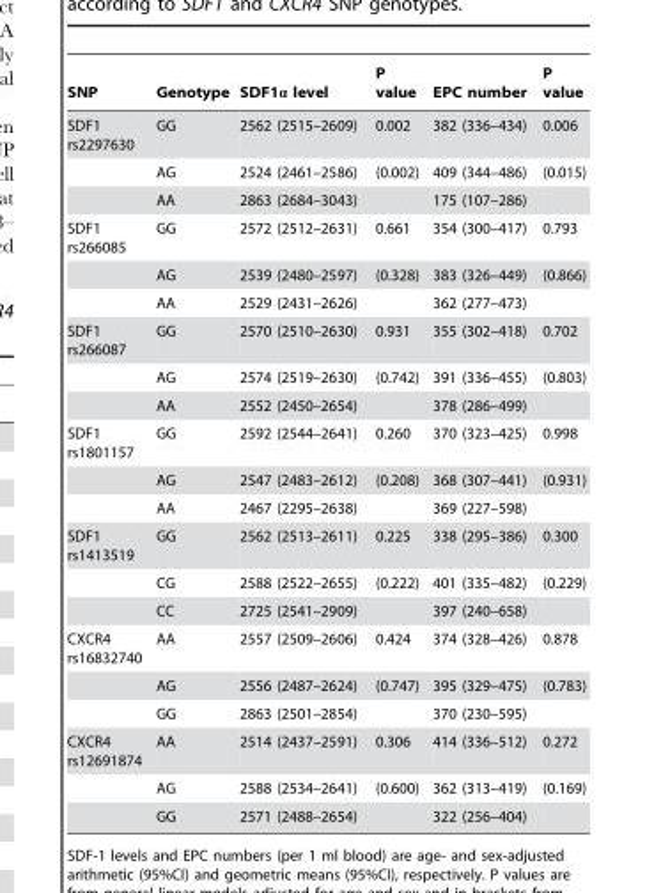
<table><thead><tr><td>SNP</td><td>Genotype</td><td>SDF1α level</td><td>P value</td><td>EPC number</td><td>P value</td></tr></thead><tbody><tr><td rowspan="3">SDF1 rs2297630</td><td>GG</td><td>2562 (2515–2609)</td><td>0.002</td><td>382 (336–434)</td><td>0.006</td></tr><tr><td>AG</td><td>2524 (2461–2586)</td><td>(0.002)</td><td>409 (344–486)</td><td>(0.015)</td></tr><tr><td>AA</td><td>2863 (2684–3043)</td><td></td><td>175 (107–286)</td><td></td></tr><tr><td rowspan="3">SDF1 rs266085</td><td>GG</td><td>2572 (2512–2631)</td><td>0.661</td><td>354 (300–417)</td><td>0.793</td></tr><tr><td>AG</td><td>2539 (2480–2597)</td><td>(0.328)</td><td>383 (326–449)</td><td>(0.866)</td></tr><tr><td>AA</td><td>2529 (2431–2626)</td><td></td><td>362 (277–473)</td><td></td></tr><tr><td rowspan="3">SDF1 rs266087</td><td>GG</td><td>2570 (2510–2630)</td><td>0.931</td><td>355 (302–418)</td><td>0.702</td></tr><tr><td>AG</td><td>2574 (2519–2630)</td><td>(0.742)</td><td>391 (336–455)</td><td>(0.803)</td></tr><tr><td>AA</td><td>2552 (2450–2654)</td><td></td><td>378 (286–499)</td><td></td></tr><tr><td rowspan="3">SDF1 rs1801157</td><td>GG</td><td>2592 (2544–2641)</td><td>0.260</td><td>370 (323–425)</td><td>0.998</td></tr><tr><td>AG</td><td>2547 (2483–2612)</td><td>(0.208)</td><td>368 (307–441)</td><td>(0.931)</td></tr><tr><td>AA</td><td>2467 (2295–2638)</td><td></td><td>369 (227–598)</td><td></td></tr><tr><td rowspan="3">SDF1 rs1413519</td><td>GG</td><td>2562 (2513–2611)</td><td>0.225</td><td>338 (295–386)</td><td>0.300</td></tr><tr><td>CG</td><td>2588 (2522–2655)</td><td>(0.222)</td><td>401 (335–482)</td><td>(0.229)</td></tr><tr><td>CC</td><td>2725 (2541–2909)</td><td></td><td>397 (240–658)</td><td></td></tr><tr><td rowspan="3">CXCR4 rs16832740</td><td>AA</td><td>2557 (2509–2606)</td><td>0.424</td><td>374 (328–426)</td><td>0.878</td></tr><tr><td>AG</td><td>2556 (2487–2624)</td><td>(0.747)</td><td>395 (329–475)</td><td>(0.783)</td></tr><tr><td>GG</td><td>2863 (2501–2854)</td><td></td><td>370 (230–595)</td><td></td></tr><tr><td rowspan="3">CXCR4 rs12691874</td><td>AA</td><td>2514 (2437–2591)</td><td>0.306</td><td>414 (336–512)</td><td>0.272</td></tr><tr><td>AG</td><td>2588 (2534–2641)</td><td>(0.600)</td><td>362 (313–419)</td><td>(0.169)</td></tr><tr><td>GG</td><td>2571 (2488–2654)</td><td></td><td>322 (256–404)</td><td></td></tr></tbody></table>